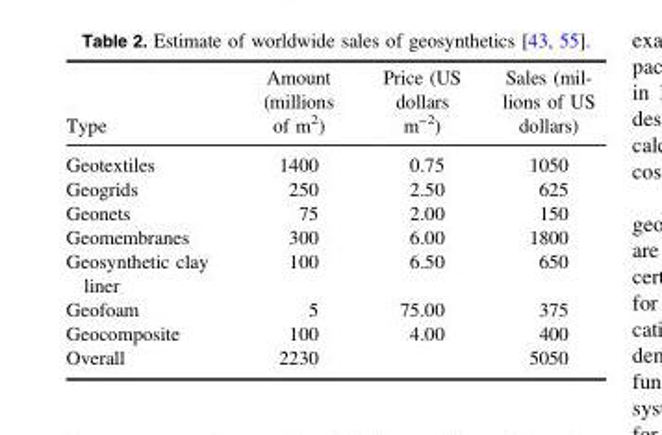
<table><thead><tr><td>Type</td><td>Amount (millions of m<sup>2</sup>)</td><td>Price (US dollars m<sup>−2</sup>)</td><td>Sales (mil- lions of US dollars)</td></tr></thead><tbody><tr><td>Geotextiles</td><td>1400</td><td>0.75</td><td>1050</td></tr><tr><td>Geogrids</td><td>250</td><td>2.50</td><td>625</td></tr><tr><td>Geonets</td><td>75</td><td>2.00</td><td>150</td></tr><tr><td>Geomembranes</td><td>300</td><td>6.00</td><td>1800</td></tr><tr><td>Geosynthetic clay liner</td><td>100</td><td>6.50</td><td>650</td></tr><tr><td>Geofoam</td><td>5</td><td>75.00</td><td>375</td></tr><tr><td>Geocomposite</td><td>100</td><td>4.00</td><td>400</td></tr><tr><td>Overall</td><td>2230</td><td></td><td>5050</td></tr></tbody></table>